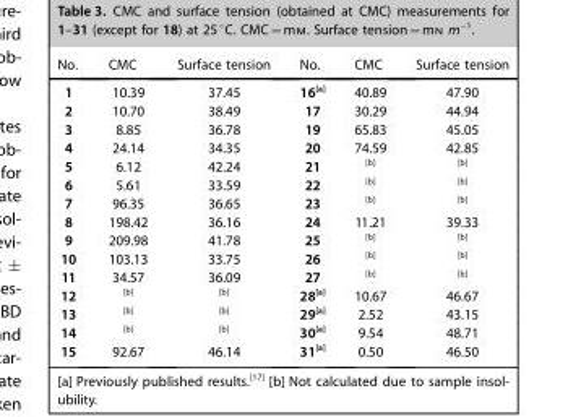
<table><thead><tr><td>No.</td><td>CMC</td><td>Surface tension</td><td>No.</td><td>CMC</td><td>Surface tension</td></tr></thead><tbody><tr><td>1</td><td>10.39</td><td>37.45</td><td>16<sup>[a]</sup></td><td>40.89</td><td>47.90</td></tr><tr><td>2</td><td>10.70</td><td>38.49</td><td>17</td><td>30.29</td><td>44.94</td></tr><tr><td>3</td><td>8.85</td><td>36.78</td><td>19</td><td>65.83</td><td>45.05</td></tr><tr><td>4</td><td>24.14</td><td>34.35</td><td>20</td><td>74.59</td><td>42.85</td></tr><tr><td>5</td><td>6.12</td><td>42.24</td><td>21</td><td><sup>[b]</sup></td><td><sup>[b]</sup></td></tr><tr><td>6</td><td>5.61</td><td>33.59</td><td>22</td><td><sup>[b]</sup></td><td><sup>[b]</sup></td></tr><tr><td>7</td><td>96.35</td><td>36.65</td><td>23</td><td><sup>[b]</sup></td><td><sup>[b]</sup></td></tr><tr><td>8</td><td>198.42</td><td>36.16</td><td>24</td><td>11.21</td><td>39.33</td></tr><tr><td>9</td><td>209.98</td><td>41.78</td><td>25</td><td><sup>[b]</sup></td><td><sup>[b]</sup></td></tr><tr><td>10</td><td>103.13</td><td>33.75</td><td>26</td><td><sup>[b]</sup></td><td><sup>[b]</sup></td></tr><tr><td>11</td><td>34.57</td><td>36.09</td><td>27</td><td><sup>[b]</sup></td><td><sup>[b]</sup></td></tr><tr><td>12</td><td><sup>[b]</sup></td><td><sup>[b]</sup></td><td>28<sup>[a]</sup></td><td>10.67</td><td>46.67</td></tr><tr><td>13</td><td><sup>[b]</sup></td><td><sup>[b]</sup></td><td>29<sup>[a]</sup></td><td>2.52</td><td>43.15</td></tr><tr><td>14</td><td><sup>[b]</sup></td><td><sup>[b]</sup></td><td>30<sup>[a]</sup></td><td>9.54</td><td>48.71</td></tr><tr><td>15</td><td>92.67</td><td>46.14</td><td>31<sup>[a]</sup></td><td>0.50</td><td>46.50</td></tr></tbody></table>